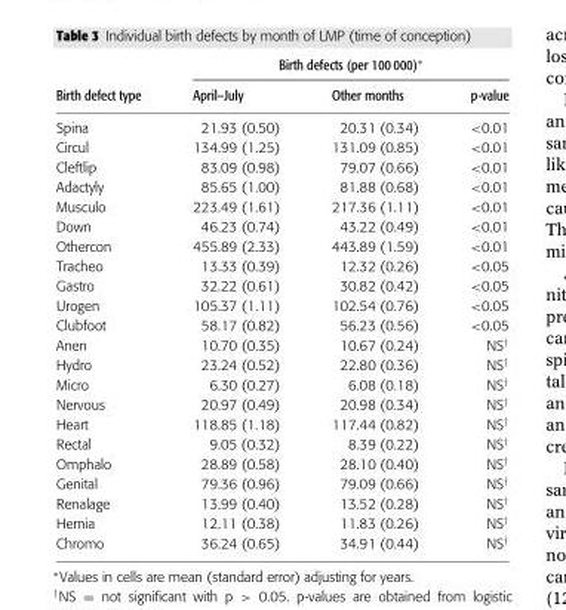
<table><thead><tr><td rowspan="2">Birth defect type</td><td colspan="3">Birth defects (per 100 000)∗</td></tr><tr><td>April–July</td><td>Other months</td><td>p-value</td></tr></thead><tbody><tr><td>Spina</td><td>21.93 (0.50)</td><td>20.31 (0.34)</td><td>&lt;0.01</td></tr><tr><td>Circul</td><td>134.99 (1.25)</td><td>131.09 (0.85)</td><td>&lt;0.01</td></tr><tr><td>Cleftlip</td><td>83.09 (0.98)</td><td>79.07 (0.66)</td><td>&lt;0.01</td></tr><tr><td>Adactyly</td><td>85.65 (1.00)</td><td>81.88 (0.68)</td><td>&lt;0.01</td></tr><tr><td>Musculo</td><td>223.49 (1.61)</td><td>217.36 (1.11)</td><td>&lt;0.01</td></tr><tr><td>Down</td><td>46.23 (0.74)</td><td>43.22 (0.49)</td><td>&lt;0.01</td></tr><tr><td>Othercon</td><td>455.89 (2.33)</td><td>443.89 (1.59)</td><td>&lt;0.01</td></tr><tr><td>Tracheo</td><td>13.33 (0.39)</td><td>12.32 (0.26)</td><td>&lt;0.05</td></tr><tr><td>Gastro</td><td>32.22 (0.61)</td><td>30.82 (0.42)</td><td>&lt;0.05</td></tr><tr><td>Urogen</td><td>105.37 (1.11)</td><td>102.54 (0.76)</td><td>&lt;0.05</td></tr><tr><td>Clubfoot</td><td>58.17 (0.82)</td><td>56.23 (0.56)</td><td>&lt;0.05</td></tr><tr><td>Anen</td><td>10.70 (0.35)</td><td>10.67 (0.24)</td><td>NS<sup>†</sup></td></tr><tr><td>Hydro</td><td>23.24 (0.52)</td><td>22.80 (0.36)</td><td>NS<sup>†</sup></td></tr><tr><td>Micro</td><td>6.30 (0.27)</td><td>6.08 (0.18)</td><td>NS<sup>†</sup></td></tr><tr><td>Nervous</td><td>20.97 (0.49)</td><td>20.98 (0.34)</td><td>NS<sup>†</sup></td></tr><tr><td>Heart</td><td>118.85 (1.18)</td><td>117.44 (0.82)</td><td>NS<sup>†</sup></td></tr><tr><td>Rectal</td><td>9.05 (0.32)</td><td>8.39 (0.22)</td><td>NS<sup>†</sup></td></tr><tr><td>Omphalo</td><td>28.89 (0.58)</td><td>28.10 (0.40)</td><td>NS<sup>†</sup></td></tr><tr><td>Genital</td><td>79.36 (0.96)</td><td>79.09 (0.66)</td><td>NS<sup>†</sup></td></tr><tr><td>Renalage</td><td>13.99 (0.40)</td><td>13.52 (0.28)</td><td>NS<sup>†</sup></td></tr><tr><td>Hernia</td><td>12.11 (0.38)</td><td>11.83 (0.26)</td><td>NS<sup>†</sup></td></tr><tr><td>Chromo</td><td>36.24 (0.65)</td><td>34.91 (0.44)</td><td>NS<sup>†</sup></td></tr></tbody></table>